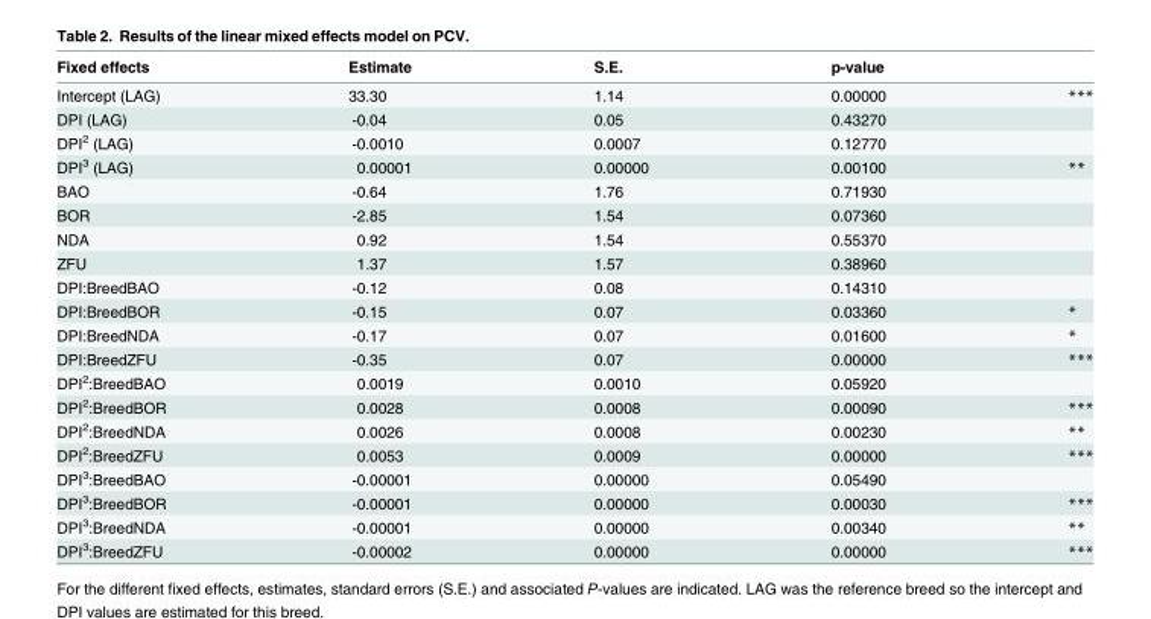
<table><thead><tr><td>Fixed effects</td><td>Estimate</td><td>S.E.</td><td>p-value</td><td></td></tr></thead><tbody><tr><td>Intercept (LAG)</td><td>33.30</td><td>1.14</td><td>0.00000</td><td>***</td></tr><tr><td>DPI (LAG)</td><td>-0.04</td><td>0.05</td><td>0.43270</td><td></td></tr><tr><td>DPI<sup>2</sup> (LAG)</td><td>-0.0010</td><td>0.0007</td><td>0.12770</td><td></td></tr><tr><td>DPI<sup>3</sup> (LAG)</td><td>0.00001</td><td>0.00000</td><td>0.00100</td><td>**</td></tr><tr><td>BAO</td><td>-0.64</td><td>1.76</td><td>0.71930</td><td></td></tr><tr><td>BOR</td><td>-2.85</td><td>1.54</td><td>0.07360</td><td></td></tr><tr><td>NDA</td><td>0.92</td><td>1.54</td><td>0.55370</td><td></td></tr><tr><td>ZFU</td><td>1.37</td><td>1.57</td><td>0.38960</td><td></td></tr><tr><td>DPI:BreedBAO</td><td>-0.12</td><td>0.08</td><td>0.14310</td><td></td></tr><tr><td>DPI:BreedBOR</td><td>-0.15</td><td>0.07</td><td>0.03360</td><td>*</td></tr><tr><td>DPI:BreedNDA</td><td>-0.17</td><td>0.07</td><td>0.01600</td><td>*</td></tr><tr><td>DPI:BreedZFU</td><td>-0.35</td><td>0.07</td><td>0.00000</td><td>***</td></tr><tr><td>DPI<sup>2</sup>:BreedBAO</td><td>0.0019</td><td>0.0010</td><td>0.05920</td><td></td></tr><tr><td>DPI<sup>2</sup>:BreedBOR</td><td>0.0028</td><td>0.0008</td><td>0.00090</td><td>***</td></tr><tr><td>DPI<sup>2</sup>:BreedNDA</td><td>0.0026</td><td>0.0008</td><td>0.00230</td><td>**</td></tr><tr><td>DPI<sup>2</sup>:BreedZFU</td><td>0.0053</td><td>0.0009</td><td>0.00000</td><td>***</td></tr><tr><td>DPI<sup>3</sup>:BreedBAO</td><td>-0.00001</td><td>0.00000</td><td>0.05490</td><td></td></tr><tr><td>DPI<sup>3</sup>:BreedBOR</td><td>-0.00001</td><td>0.00000</td><td>0.00030</td><td>***</td></tr><tr><td>DPI<sup>3</sup>:BreedNDA</td><td>-0.00001</td><td>0.00000</td><td>0.00340</td><td>**</td></tr><tr><td>DPI<sup>3</sup>:BreedZFU</td><td>-0.00002</td><td>0.00000</td><td>0.00000</td><td>***</td></tr></tbody></table>